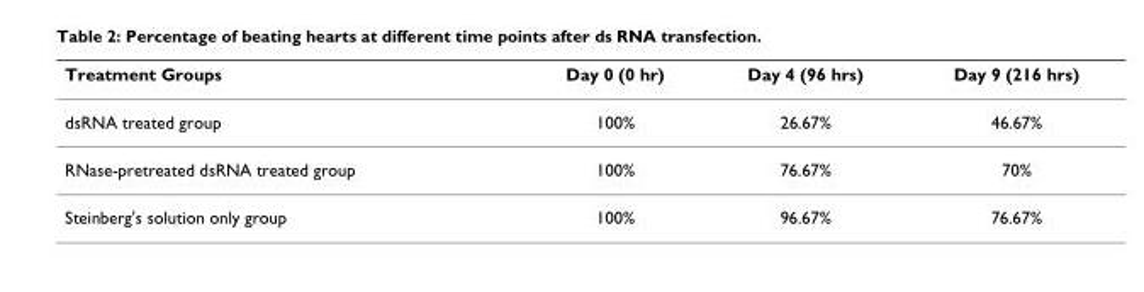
<table><thead><tr><td>Treatment Groups</td><td>Day 0 (0 hr)</td><td>Day 4 (96 hrs)</td><td>Day 9 (216 hrs)</td></tr></thead><tbody><tr><td>dsRNA treated group</td><td>100%</td><td>26.67%</td><td>46.67%</td></tr><tr><td>RNase-pretreated dsRNA treated group</td><td>100%</td><td>76.67%</td><td>70%</td></tr><tr><td>Steinberg&#x27;s solution only group</td><td>100%</td><td>96.67%</td><td>76.67%</td></tr></tbody></table>